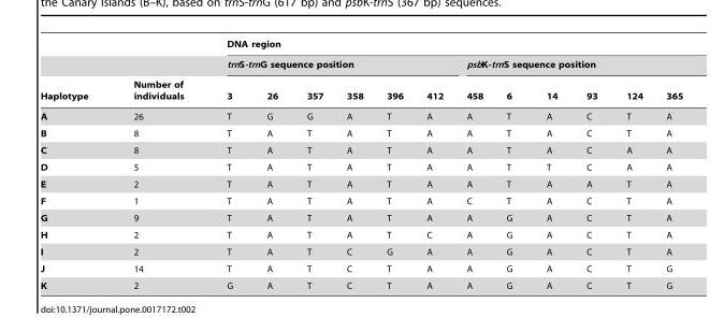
<table><thead><tr><td rowspan="3">Haplotype</td><td rowspan="3">Number of individuals</td><td colspan="12">DNA region</td></tr><tr><td colspan="6">trnS-trnG sequence position</td><td colspan="6">psbK-trnS sequence position</td></tr><tr><td>3</td><td>26</td><td>357</td><td>358</td><td>396</td><td>412</td><td>458</td><td>6</td><td>14</td><td>93</td><td>124</td><td>365</td></tr></thead><tbody><tr><td>A</td><td>26</td><td>T</td><td>G</td><td>G</td><td>A</td><td>T</td><td>A</td><td>A</td><td>T</td><td>A</td><td>C</td><td>T</td><td>A</td></tr><tr><td>B</td><td>8</td><td>T</td><td>A</td><td>T</td><td>A</td><td>T</td><td>A</td><td>A</td><td>T</td><td>A</td><td>C</td><td>T</td><td>A</td></tr><tr><td>C</td><td>8</td><td>T</td><td>A</td><td>T</td><td>A</td><td>T</td><td>A</td><td>A</td><td>T</td><td>A</td><td>C</td><td>A</td><td>A</td></tr><tr><td>D</td><td>5</td><td>T</td><td>A</td><td>T</td><td>A</td><td>T</td><td>A</td><td>A</td><td>T</td><td>T</td><td>C</td><td>A</td><td>A</td></tr><tr><td>E</td><td>2</td><td>T</td><td>A</td><td>T</td><td>A</td><td>T</td><td>A</td><td>A</td><td>T</td><td>A</td><td>A</td><td>T</td><td>A</td></tr><tr><td>F</td><td>1</td><td>T</td><td>A</td><td>T</td><td>A</td><td>T</td><td>A</td><td>C</td><td>T</td><td>A</td><td>C</td><td>T</td><td>A</td></tr><tr><td>G</td><td>9</td><td>T</td><td>A</td><td>T</td><td>A</td><td>T</td><td>A</td><td>A</td><td>G</td><td>A</td><td>C</td><td>T</td><td>A</td></tr><tr><td>H</td><td>2</td><td>T</td><td>A</td><td>T</td><td>A</td><td>T</td><td>C</td><td>A</td><td>G</td><td>A</td><td>C</td><td>T</td><td>A</td></tr><tr><td>I</td><td>2</td><td>T</td><td>A</td><td>T</td><td>C</td><td>G</td><td>A</td><td>A</td><td>G</td><td>A</td><td>C</td><td>T</td><td>A</td></tr><tr><td>J</td><td>14</td><td>T</td><td>A</td><td>T</td><td>C</td><td>T</td><td>A</td><td>A</td><td>G</td><td>A</td><td>C</td><td>T</td><td>G</td></tr><tr><td>K</td><td>2</td><td>G</td><td>A</td><td>T</td><td>C</td><td>T</td><td>A</td><td>A</td><td>G</td><td>A</td><td>C</td><td>T</td><td>G</td></tr></tbody></table>